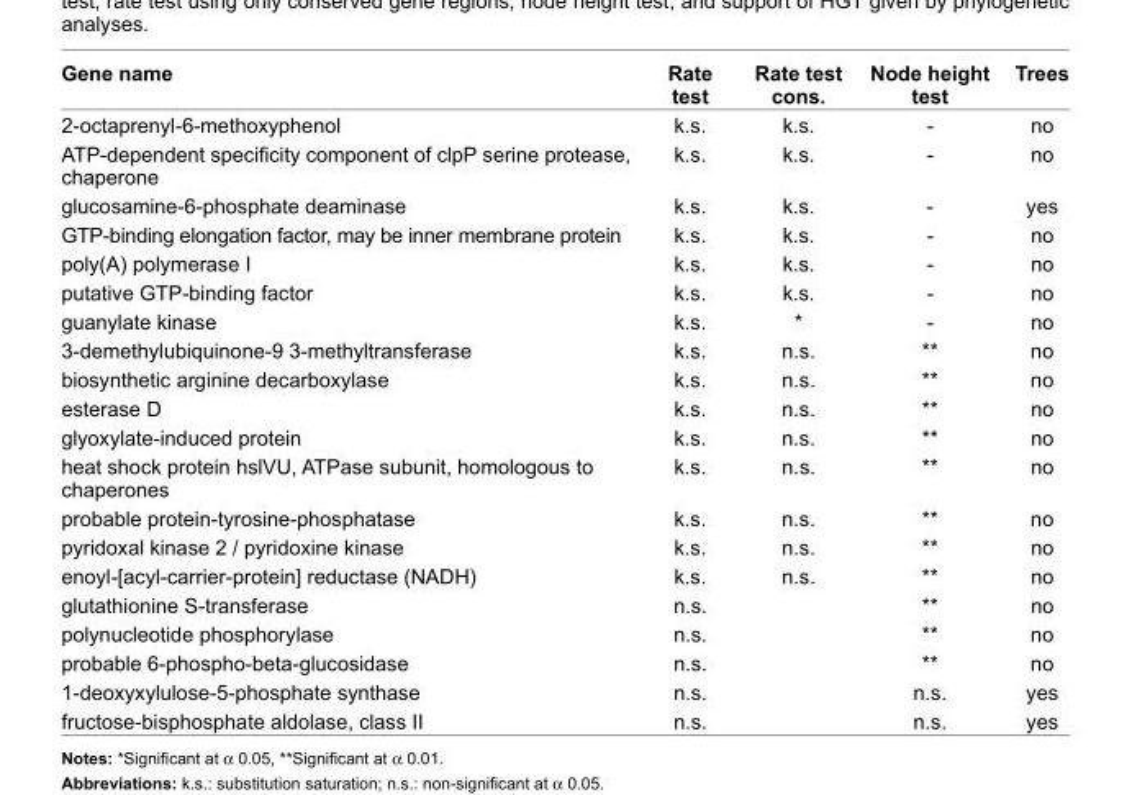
<table><thead><tr><td>Gene name</td><td>Rate test</td><td>Rate test cons.</td><td>Node height test</td><td>Trees</td></tr></thead><tbody><tr><td>2-octaprenyl-6-methoxyphenol</td><td>k.s.</td><td>k.s.</td><td>-</td><td>no</td></tr><tr><td>ATP-dependent specifi city component of clpP serine protease, chaperone</td><td>k.s.</td><td>k.s.</td><td>-</td><td>no</td></tr><tr><td>glucosamine-6-phosphate deaminase</td><td>k.s.</td><td>k.s.</td><td>-</td><td>yes</td></tr><tr><td>GTP-binding elongation factor, may be inner membrane protein</td><td>k.s.</td><td>k.s.</td><td>-</td><td>no</td></tr><tr><td>poly(A) polymerase I</td><td>k.s.</td><td>k.s.</td><td>-</td><td>no</td></tr><tr><td>putative GTP-binding factor</td><td>k.s.</td><td>k.s.</td><td>-</td><td>no</td></tr><tr><td>guanylate kinase</td><td>k.s.</td><td>*</td><td>-</td><td>no</td></tr><tr><td>3-demethylubiquinone-9 3-methyltransferase</td><td>k.s.</td><td>n.s.</td><td>**</td><td>no</td></tr><tr><td>biosynthetic arginine decarboxylase</td><td>k.s.</td><td>n.s.</td><td>**</td><td>no</td></tr><tr><td>esterase D</td><td>k.s.</td><td>n.s.</td><td>**</td><td>no</td></tr><tr><td>glyoxylate-induced protein</td><td>k.s.</td><td>n.s.</td><td>**</td><td>no</td></tr><tr><td>heat shock protein hslVU, ATPase subunit, homologous to chaperones</td><td>k.s.</td><td>n.s.</td><td>**</td><td>no</td></tr><tr><td>probable protein-tyrosine-phosphatase</td><td>k.s.</td><td>n.s.</td><td>**</td><td>no</td></tr><tr><td>pyridoxal kinase 2 / pyridoxine kinase</td><td>k.s.</td><td>n.s.</td><td>**</td><td>no</td></tr><tr><td>enoyl-[acyl-carrier-protein] reductase (NADH)</td><td>k.s.</td><td>n.s.</td><td>**</td><td>no</td></tr><tr><td>glutathionine S-transferase</td><td>n.s.</td><td></td><td>**</td><td>no</td></tr><tr><td>polynucleotide phosphorylase</td><td>n.s.</td><td></td><td>**</td><td>no</td></tr><tr><td>probable 6-phospho-beta-glucosidase</td><td>n.s.</td><td></td><td>**</td><td>no</td></tr><tr><td>1-deoxyxylulose-5-phosphate synthase</td><td>n.s.</td><td></td><td>n.s.</td><td>yes</td></tr><tr><td>fructose-bisphosphate aldolase, class II</td><td>n.s.</td><td></td><td>n.s.</td><td>yes</td></tr></tbody></table>